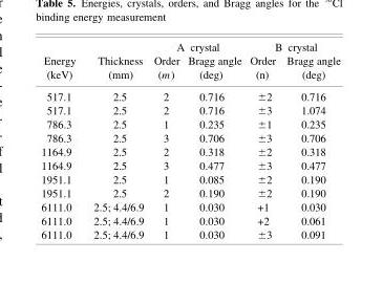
<table><thead><tr><td rowspan="2">Energy (keV)</td><td rowspan="2">Thickness (mm)</td><td colspan="2">A crystal</td><td colspan="2">B crystal</td></tr><tr><td>Order (m)</td><td>Bragg angle (deg)</td><td>Order (n)</td><td>Bragg angle (deg)</td></tr></thead><tbody><tr><td>517.1</td><td>2.5</td><td>2</td><td>0.716</td><td>±2</td><td>0.716</td></tr><tr><td>517.1</td><td>2.5</td><td>2</td><td>0.716</td><td>±3</td><td>1.074</td></tr><tr><td>786.3</td><td>2.5</td><td>1</td><td>0.235</td><td>±1</td><td>0.235</td></tr><tr><td>786.3</td><td>2.5</td><td>3</td><td>0.706</td><td>±3</td><td>0.706</td></tr><tr><td>1164.9</td><td>2.5</td><td>2</td><td>0.318</td><td>±2</td><td>0.318</td></tr><tr><td>1164.9</td><td>2.5</td><td>3</td><td>0.477</td><td>±3</td><td>0.477</td></tr><tr><td>1951.1</td><td>2.5</td><td>1</td><td>0.085</td><td>±2</td><td>0.190</td></tr><tr><td>1951.1</td><td>2.5</td><td>2</td><td>0.190</td><td>±2</td><td>0.190</td></tr><tr><td>6111.0</td><td>2.5; 4.4/6.9</td><td>1</td><td>0.030</td><td>+1</td><td>0.030</td></tr><tr><td>6111.0</td><td>2.5; 4.4/6.9</td><td>1</td><td>0.030</td><td>+2</td><td>0.061</td></tr><tr><td>6111.0</td><td>2.5; 4.4/6.9</td><td>1</td><td>0.030</td><td>±3</td><td>0.091</td></tr></tbody></table>